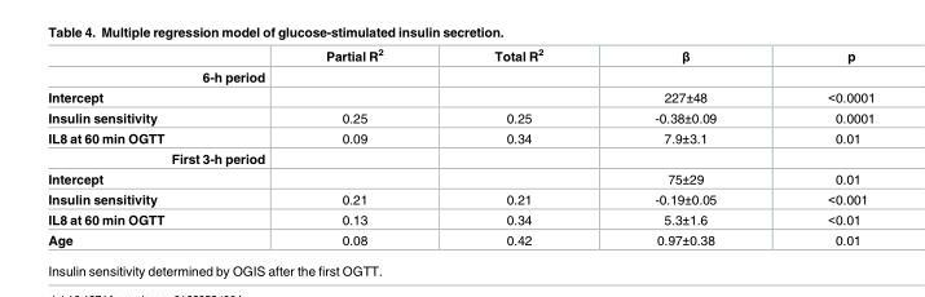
<table><thead><tr><td></td><td>Partial R<sup>2</sup></td><td>Total R<sup>2</sup></td><td>β</td><td>p</td></tr></thead><tbody><tr><td colspan="5">6-h period</td></tr><tr><td>Intercept</td><td></td><td></td><td>227±48</td><td>&lt;0.0001</td></tr><tr><td>Insulin sensitivity</td><td>0.25</td><td>0.25</td><td>-0.38±0.09</td><td>0.0001</td></tr><tr><td>IL8 at 60 min OGTT</td><td>0.09</td><td>0.34</td><td>7.9±3.1</td><td>0.01</td></tr><tr><td colspan="5">First 3-h period</td></tr><tr><td>Intercept</td><td></td><td></td><td>75±29</td><td>0.01</td></tr><tr><td>Insulin sensitivity</td><td>0.21</td><td>0.21</td><td>-0.19±0.05</td><td>&lt;0.001</td></tr><tr><td>IL8 at 60 min OGTT</td><td>0.13</td><td>0.34</td><td>5.3±1.6</td><td>&lt;0.01</td></tr><tr><td>Age</td><td>0.08</td><td>0.42</td><td>0.97±0.38</td><td>0.01</td></tr></tbody></table>